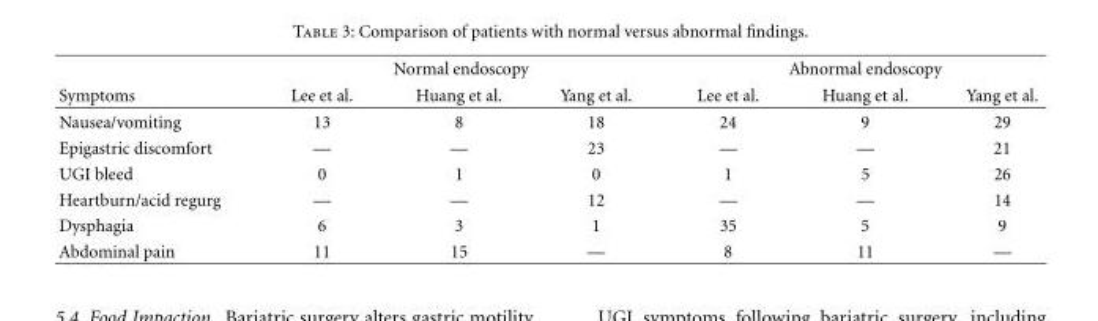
<table><thead><tr><td rowspan="2">Symptoms</td><td colspan="3">Normal endoscopy</td><td colspan="3">Abnormal endoscopy</td></tr><tr><td>Lee et al.</td><td>Huang et al.</td><td>Yang et al.</td><td>Lee et al.</td><td>Huang et al.</td><td>Yang et al.</td></tr></thead><tbody><tr><td>Nausea/vomiting</td><td>13</td><td>8</td><td>18</td><td>24</td><td>9</td><td>29</td></tr><tr><td>Epigastric discomfort</td><td>—</td><td>—</td><td>23</td><td>—</td><td>—</td><td>21</td></tr><tr><td>UGI bleed</td><td>0</td><td>1</td><td>0</td><td>1</td><td>5</td><td>26</td></tr><tr><td>Heartburn/acid regurg</td><td>—</td><td>—</td><td>12</td><td>—</td><td>—</td><td>14</td></tr><tr><td>Dysphagia</td><td>6</td><td>3</td><td>1</td><td>35</td><td>5</td><td>9</td></tr><tr><td>Abdominal pain</td><td>11</td><td>15</td><td>—</td><td>8</td><td>11</td><td>—</td></tr></tbody></table>